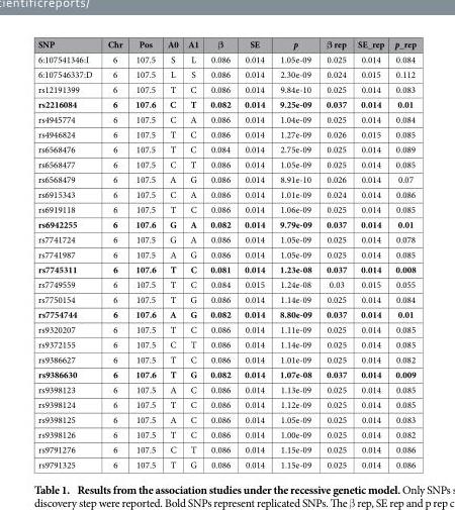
<table><thead><tr><td>SNP</td><td>Chr</td><td>Pos</td><td>A0</td><td>A1</td><td>β</td><td>SE</td><td>p</td><td>β rep</td><td>SE_rep</td><td>p_rep</td></tr></thead><tbody><tr><td>6:107541346:I</td><td>6</td><td>107.5</td><td>S</td><td>L</td><td>0.086</td><td>0.014</td><td>1.05e-09</td><td>0.025</td><td>0.014</td><td>0.084</td></tr><tr><td>6:107546337:D</td><td>6</td><td>107.5</td><td>L</td><td>S</td><td>0.086</td><td>0.014</td><td>2.30e-09</td><td>0.024</td><td>0.015</td><td>0.112</td></tr><tr><td>rs12191399</td><td>6</td><td>107.5</td><td>T</td><td>C</td><td>0.086</td><td>0.014</td><td>9.84e-10</td><td>0.025</td><td>0.014</td><td>0.083</td></tr><tr><td>rs2216084</td><td>6</td><td>107.6</td><td>C</td><td>T</td><td>0.082</td><td>0.014</td><td>9.25e-09</td><td>0.037</td><td>0.014</td><td>0.01</td></tr><tr><td>rs4945774</td><td>6</td><td>107.5</td><td>C</td><td>A</td><td>0.086</td><td>0.014</td><td>1.04e-09</td><td>0.025</td><td>0.014</td><td>0.084</td></tr><tr><td>rs4946824</td><td>6</td><td>107.5</td><td>T</td><td>C</td><td>0.086</td><td>0.014</td><td>1.27e-09</td><td>0.026</td><td>0.015</td><td>0.085</td></tr><tr><td>rs6568476</td><td>6</td><td>107.5</td><td>T</td><td>C</td><td>0.084</td><td>0.014</td><td>2.75e-09</td><td>0.025</td><td>0.014</td><td>0.089</td></tr><tr><td>rs6568477</td><td>6</td><td>107.5</td><td>C</td><td>T</td><td>0.086</td><td>0.014</td><td>1.05e-09</td><td>0.025</td><td>0.014</td><td>0.085</td></tr><tr><td>rs6568479</td><td>6</td><td>107.5</td><td>A</td><td>G</td><td>0.086</td><td>0.014</td><td>8.91e-10</td><td>0.026</td><td>0.014</td><td>0.07</td></tr><tr><td>rs6915343</td><td>6</td><td>107.5</td><td>C</td><td>A</td><td>0.086</td><td>0.014</td><td>1.01e-09</td><td>0.024</td><td>0.014</td><td>0.086</td></tr><tr><td>rs6919118</td><td>6</td><td>107.5</td><td>T</td><td>C</td><td>0.086</td><td>0.014</td><td>1.06e-09</td><td>0.025</td><td>0.014</td><td>0.085</td></tr><tr><td>rs6942255</td><td>6</td><td>107.6</td><td>G</td><td>A</td><td>0.082</td><td>0.014</td><td>9.79e-09</td><td>0.037</td><td>0.014</td><td>0.01</td></tr><tr><td>rs7741724</td><td>6</td><td>107.5</td><td>G</td><td>A</td><td>0.086</td><td>0.014</td><td>1.05e-09</td><td>0.025</td><td>0.014</td><td>0.078</td></tr><tr><td>rs7741987</td><td>6</td><td>107.5</td><td>A</td><td>G</td><td>0.086</td><td>0.014</td><td>1.05e-09</td><td>0.025</td><td>0.014</td><td>0.085</td></tr><tr><td>rs7745311</td><td>6</td><td>107.6</td><td>T</td><td>C</td><td>0.081</td><td>0.014</td><td>1.23e-08</td><td>0.037</td><td>0.014</td><td>0.008</td></tr><tr><td>rs7749559</td><td>6</td><td>107.5</td><td>T</td><td>C</td><td>0.084</td><td>0.015</td><td>1.24e-08</td><td>0.03</td><td>0.015</td><td>0.055</td></tr><tr><td>rs7750154</td><td>6</td><td>107.5</td><td>T</td><td>G</td><td>0.086</td><td>0.014</td><td>1.14e-09</td><td>0.025</td><td>0.014</td><td>0.084</td></tr><tr><td>rs7754744</td><td>6</td><td>107.6</td><td>A</td><td>G</td><td>0.082</td><td>0.014</td><td>8.80e-09</td><td>0.037</td><td>0.014</td><td>0.01</td></tr><tr><td>rs9320207</td><td>6</td><td>107.5</td><td>T</td><td>C</td><td>0.086</td><td>0.014</td><td>1.11e-09</td><td>0.025</td><td>0.014</td><td>0.085</td></tr><tr><td>rs9372155</td><td>6</td><td>107.5</td><td>C</td><td>T</td><td>0.086</td><td>0.014</td><td>1.14e-09</td><td>0.025</td><td>0.014</td><td>0.085</td></tr><tr><td>rs9386627</td><td>6</td><td>107.5</td><td>T</td><td>C</td><td>0.086</td><td>0.014</td><td>1.01e-09</td><td>0.025</td><td>0.014</td><td>0.082</td></tr><tr><td>rs9386630</td><td>6</td><td>107.6</td><td>T</td><td>G</td><td>0.082</td><td>0.014</td><td>1.07e-08</td><td>0.037</td><td>0.014</td><td>0.009</td></tr><tr><td>rs9398123</td><td>6</td><td>107.5</td><td>A</td><td>C</td><td>0.086</td><td>0.014</td><td>1.13e-09</td><td>0.025</td><td>0.014</td><td>0.085</td></tr><tr><td>rs9398124</td><td>6</td><td>107.5</td><td>T</td><td>C</td><td>0.086</td><td>0.014</td><td>1.12e-09</td><td>0.025</td><td>0.014</td><td>0.085</td></tr><tr><td>rs9398125</td><td>6</td><td>107.5</td><td>A</td><td>C</td><td>0.086</td><td>0.014</td><td>1.05e-09</td><td>0.025</td><td>0.014</td><td>0.083</td></tr><tr><td>rs9398126</td><td>6</td><td>107.5</td><td>T</td><td>C</td><td>0.086</td><td>0.014</td><td>1.00e-09</td><td>0.025</td><td>0.014</td><td>0.082</td></tr><tr><td>rs9791276</td><td>6</td><td>107.5</td><td>C</td><td>T</td><td>0.086</td><td>0.014</td><td>1.15e-09</td><td>0.025</td><td>0.014</td><td>0.086</td></tr><tr><td>rs9791325</td><td>6</td><td>107.5</td><td>T</td><td>G</td><td>0.086</td><td>0.014</td><td>1.15e-09</td><td>0.025</td><td>0.014</td><td>0.086</td></tr></tbody></table>